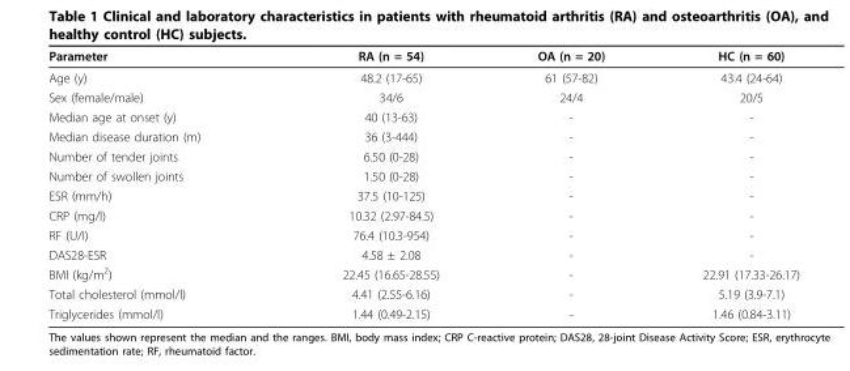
<table><thead><tr><td>Parameter</td><td>RA (n = 54)</td><td>OA (n = 20)</td><td>HC (n = 60)</td></tr></thead><tbody><tr><td>Age (y)</td><td>48.2 (17-65)</td><td>61 (57-82)</td><td>43.4 (24-64)</td></tr><tr><td>Sex (female/male)</td><td>34/6</td><td>24/4</td><td>20/5</td></tr><tr><td>Median age at onset (y)</td><td>40 (13-63)</td><td>-</td><td>-</td></tr><tr><td>Median disease duration (m)</td><td>36 (3-444)</td><td>-</td><td>-</td></tr><tr><td>Number of tender joints</td><td>6.50 (0-28)</td><td>-</td><td>-</td></tr><tr><td>Number of swollen joints</td><td>1.50 (0-28)</td><td>-</td><td>-</td></tr><tr><td>ESR (mm/h)</td><td>37.5 (10-125)</td><td>-</td><td>-</td></tr><tr><td>CRP (mg/l)</td><td>10.32 (2.97-84.5)</td><td>-</td><td>-</td></tr><tr><td>RF (U/I)</td><td>76.4 (10.3-954)</td><td>-</td><td>-</td></tr><tr><td>DAS28-ESR</td><td>4.58 ± 2.08</td><td>-</td><td>-</td></tr><tr><td>BMI (kg/m<sup>2</sup>)</td><td>22.45 (16.65-28.55)</td><td>-</td><td>22.91 (17.33-26.17)</td></tr><tr><td>Total cholesterol (mmol/l)</td><td>4.41 (2.55-6.16)</td><td>-</td><td>5.19 (3.9-7.1)</td></tr><tr><td>Triglycerides (mmol/l)</td><td>1.44 (0.49-2.15)</td><td>-</td><td>1.46 (0.84-3.11)</td></tr></tbody></table>